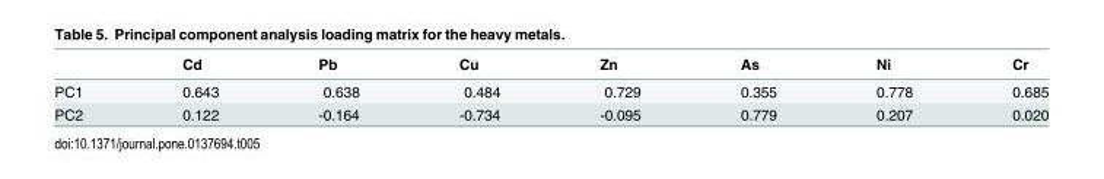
<table><thead><tr><td></td><td>Cd</td><td>Pb</td><td>Cu</td><td>Zn</td><td>As</td><td>Ni</td><td>Cr</td></tr></thead><tbody><tr><td>PC1</td><td>0.643</td><td>0.638</td><td>0.484</td><td>0.729</td><td>0.355</td><td>0.778</td><td>0.685</td></tr><tr><td>PC2</td><td>0.122</td><td>-0.164</td><td>-0.734</td><td>-0.095</td><td>0.779</td><td>0.207</td><td>0.020</td></tr></tbody></table>